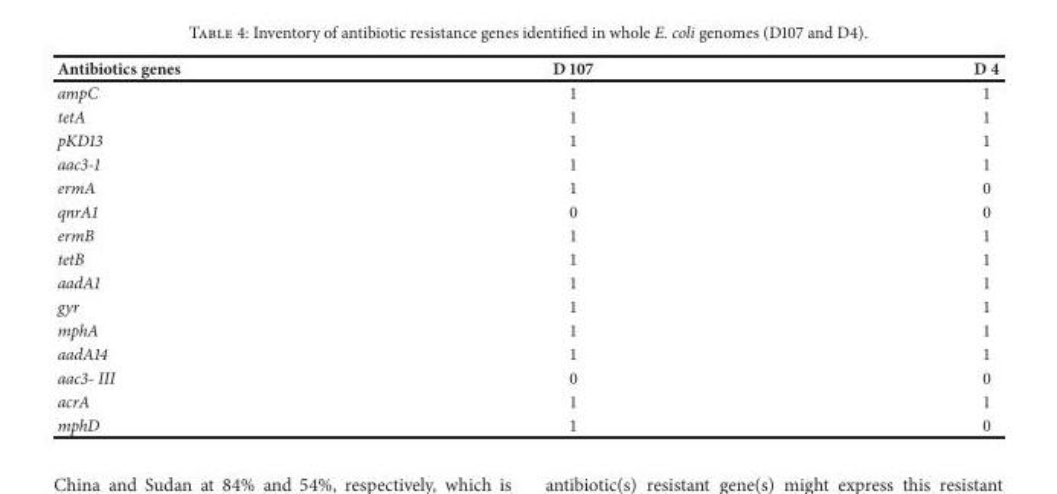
<table><thead><tr><td>Antibiotics genes</td><td>D 107</td><td>D 4</td></tr></thead><tbody><tr><td>ampC</td><td>1</td><td>1</td></tr><tr><td>tetA</td><td>1</td><td>1</td></tr><tr><td>pKD13</td><td>1</td><td>1</td></tr><tr><td>aac3-1</td><td>1</td><td>1</td></tr><tr><td>ermA</td><td>1</td><td>0</td></tr><tr><td>qnrA1</td><td>0</td><td>0</td></tr><tr><td>ermB</td><td>1</td><td>1</td></tr><tr><td>tetB</td><td>1</td><td>1</td></tr><tr><td>aadA1</td><td>1</td><td>1</td></tr><tr><td>gyr</td><td>1</td><td>1</td></tr><tr><td>mphA</td><td>1</td><td>1</td></tr><tr><td>aadA14</td><td>1</td><td>1</td></tr><tr><td>aac3- III</td><td>0</td><td>0</td></tr><tr><td>acrA</td><td>1</td><td>1</td></tr><tr><td>mphD</td><td>1</td><td>0</td></tr></tbody></table>